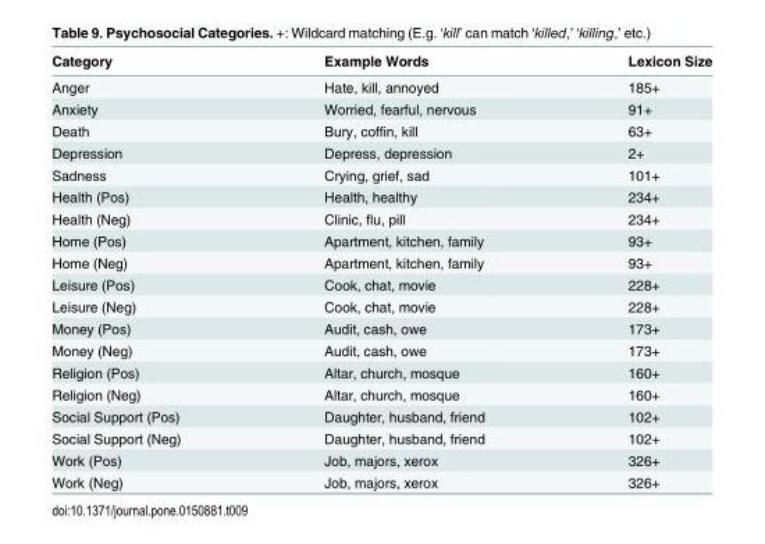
<table><thead><tr><td>Category</td><td>Example Words</td><td>Lexicon Size</td></tr></thead><tbody><tr><td>Anger</td><td>Hate, kill, annoyed</td><td>185+</td></tr><tr><td>Anxiety</td><td>Worried, fearful, nervous</td><td>91+</td></tr><tr><td>Death</td><td>Bury, coffin, kill</td><td>63+</td></tr><tr><td>Depression</td><td>Depress, depression</td><td>2+</td></tr><tr><td>Sadness</td><td>Crying, grief, sad</td><td>101+</td></tr><tr><td>Health (Pos)</td><td>Health, healthy</td><td>234+</td></tr><tr><td>Health (Neg)</td><td>Clinic, flu, pill</td><td>234+</td></tr><tr><td>Home (Pos)</td><td>Apartment, kitchen, family</td><td>93+</td></tr><tr><td>Home (Neg)</td><td>Apartment, kitchen, family</td><td>93+</td></tr><tr><td>Leisure (Pos)</td><td>Cook, chat, movie</td><td>228+</td></tr><tr><td>Leisure (Neg)</td><td>Cook, chat, movie</td><td>228+</td></tr><tr><td>Money (Pos)</td><td>Audit, cash, owe</td><td>173+</td></tr><tr><td>Money (Neg)</td><td>Audit, cash, owe</td><td>173+</td></tr><tr><td>Religion (Pos)</td><td>Altar, church, mosque</td><td>160+</td></tr><tr><td>Religion (Neg)</td><td>Altar, church, mosque</td><td>160+</td></tr><tr><td>Social Support (Pos)</td><td>Daughter, husband, friend</td><td>102+</td></tr><tr><td>Social Support (Neg)</td><td>Daughter, husband, friend</td><td>102+</td></tr><tr><td>Work (Pos)</td><td>Job, majors, xerox</td><td>326+</td></tr><tr><td>Work (Neg)</td><td>Job, majors, xerox</td><td>326+</td></tr></tbody></table>